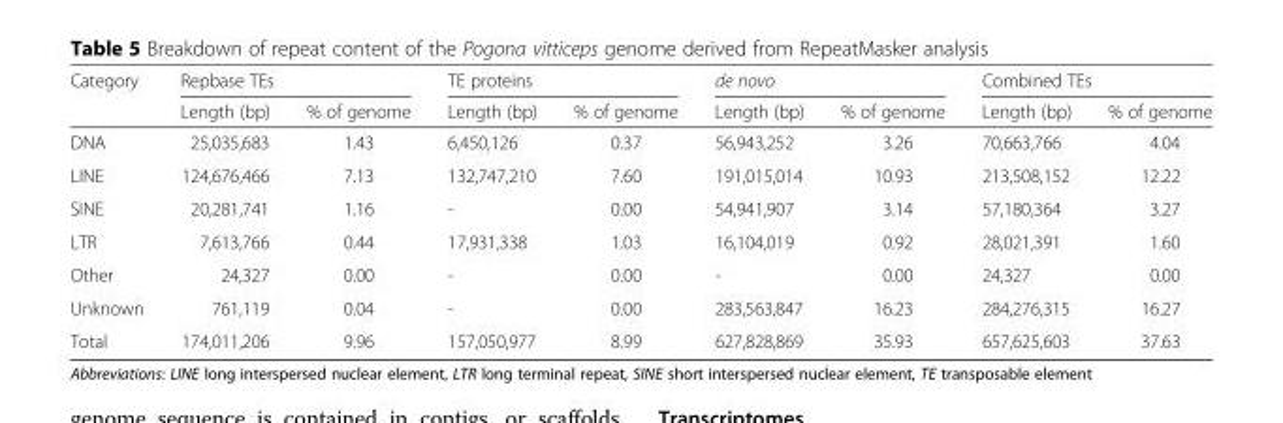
<table><thead><tr><td rowspan="2">Category</td><td colspan="2">Repbase TEs</td><td colspan="2">TE proteins</td><td colspan="2">de novo</td><td colspan="2">Combined TEs</td></tr><tr><td>Length (bp)</td><td>% of genome</td><td>Length (bp)</td><td>% of genome</td><td>Length (bp)</td><td>% of genome</td><td>Length (bp)</td><td>% of genome</td></tr></thead><tbody><tr><td>DNA</td><td>25,035,683</td><td>1.43</td><td>6,450,126</td><td>0.37</td><td>56,943,252</td><td>3.26</td><td>70,663,766</td><td>4.04</td></tr><tr><td>LINE</td><td>124,676,466</td><td>7.13</td><td>132,747,210</td><td>7.60</td><td>191,015,014</td><td>10.93</td><td>213,508,152</td><td>12.22</td></tr><tr><td>SINE</td><td>20,281,741</td><td>1.16</td><td>-</td><td>0.00</td><td>54,941,907</td><td>3.14</td><td>57,180,364</td><td>3.27</td></tr><tr><td>LTR</td><td>7,613,766</td><td>0.44</td><td>17,931,338</td><td>1.03</td><td>16,104,019</td><td>0.92</td><td>28,021,391</td><td>1.60</td></tr><tr><td>Other</td><td>24,327</td><td>0.00</td><td>-</td><td>0.00</td><td>-</td><td>0.00</td><td>24,327</td><td>0.00</td></tr><tr><td>Unknown</td><td>761,119</td><td>0.04</td><td>-</td><td>0.00</td><td>283,563,847</td><td>16.23</td><td>284,276,315</td><td>16.27</td></tr><tr><td>Total</td><td>174,011,206</td><td>9.96</td><td>157,050,977</td><td>8.99</td><td>627,828,869</td><td>35.93</td><td>657,625,603</td><td>37.63</td></tr></tbody></table>